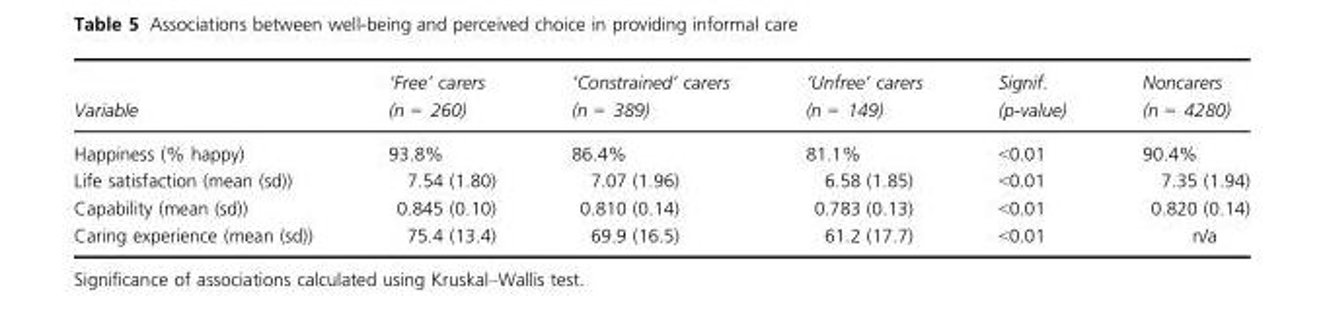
<table><thead><tr><td>Variable</td><td>‘Free’ carers (n = 260)</td><td>‘Constrained’ carers (n = 389)</td><td>‘Unfree’ carers (n = 149)</td><td>Signif. (p-value)</td><td>Noncarers (n = 4280)</td></tr></thead><tbody><tr><td>Happiness (% happy)</td><td>93.8%</td><td>86.4%</td><td>81.1%</td><td>&lt;0.01</td><td>90.4%</td></tr><tr><td>Life satisfaction (mean (sd))</td><td>7.54 (1.80)</td><td>7.07 (1.96)</td><td>6.58 (1.85)</td><td>&lt;0.01</td><td>7.35 (1.94)</td></tr><tr><td>Capability (mean (sd))</td><td>0.845 (0.10)</td><td>0.810 (0.14)</td><td>0.783 (0.13)</td><td>&lt;0.01</td><td>0.820 (0.14)</td></tr><tr><td>Caring experience (mean (sd))</td><td>75.4 (13.4)</td><td>69.9 (16.5)</td><td>61.2 (17.7)</td><td>&lt;0.01</td><td>n/a</td></tr></tbody></table>